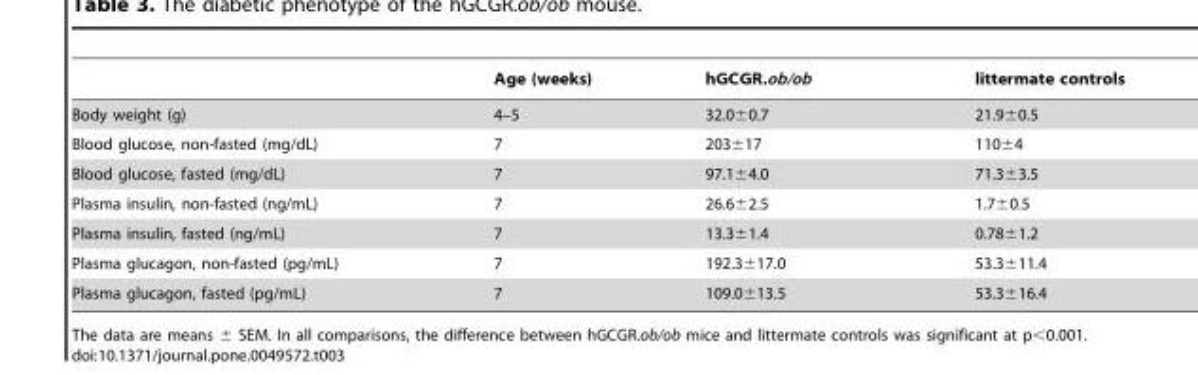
<table><thead><tr><td></td><td>Age (weeks)</td><td>hGCGR.ob/ob</td><td>littermate controls</td></tr></thead><tbody><tr><td>Body weight (g)</td><td>4–5</td><td>32.0±0.7</td><td>21.9±0.5</td></tr><tr><td>Blood glucose, non-fasted (mg/dL)</td><td>7</td><td>203±17</td><td>110±4</td></tr><tr><td>Blood glucose, fasted (mg/dL)</td><td>7</td><td>97.1±4.0</td><td>71.3±3.5</td></tr><tr><td>Plasma insulin, non-fasted (ng/mL)</td><td>7</td><td>26.6±2.5</td><td>1.7±0.5</td></tr><tr><td>Plasma insulin, fasted (ng/mL)</td><td>7</td><td>13.3±1.4</td><td>0.78±1.2</td></tr><tr><td>Plasma glucagon, non-fasted (pg/mL)</td><td>7</td><td>192.3±17.0</td><td>53.3±11.4</td></tr><tr><td>Plasma glucagon, fasted (pg/mL)</td><td>7</td><td>109.0±13.5</td><td>53.3±16.4</td></tr></tbody></table>